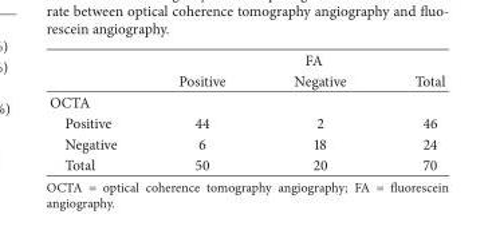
<table><thead><tr><td rowspan="2"></td><td colspan="3">FA</td></tr><tr><td>Positive</td><td>Negative</td><td>Total</td></tr></thead><tbody><tr><td colspan="4">OCTA</td></tr><tr><td>Positive</td><td>44</td><td>2</td><td>46</td></tr><tr><td>Negative</td><td>6</td><td>18</td><td>24</td></tr><tr><td>Total</td><td>50</td><td>20</td><td>70</td></tr></tbody></table>